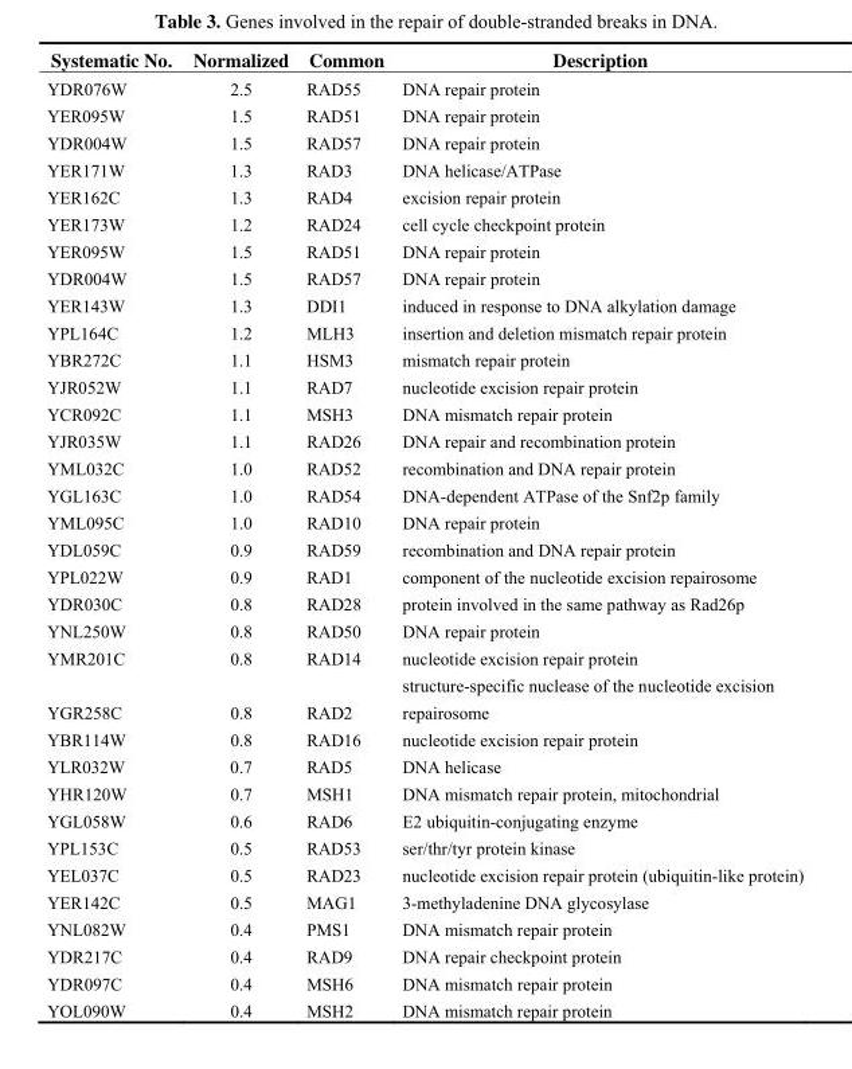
<table><thead><tr><td>Systematic No.</td><td>Normalized</td><td>Common</td><td>Description</td></tr></thead><tbody><tr><td>YDR076W</td><td>2.5</td><td>RAD55</td><td>DNA repair protein</td></tr><tr><td>YER095W</td><td>1.5</td><td>RAD51</td><td>DNA repair protein</td></tr><tr><td>YDR004W</td><td>1.5</td><td>RAD57</td><td>DNA repair protein</td></tr><tr><td>YER171W</td><td>1.3</td><td>RAD3</td><td>DNA helicase/ATPase</td></tr><tr><td>YER162C</td><td>1.3</td><td>RAD4</td><td>excision repair protein</td></tr><tr><td>YER173W</td><td>1.2</td><td>RAD24</td><td>cell cycle checkpoint protein</td></tr><tr><td>YER095W</td><td>1.5</td><td>RAD51</td><td>DNA repair protein</td></tr><tr><td>YDR004W</td><td>1.5</td><td>RAD57</td><td>DNA repair protein</td></tr><tr><td>YER143W</td><td>1.3</td><td>DDI1</td><td>induced in response to DNA alkylation damage</td></tr><tr><td>YPL164C</td><td>1.2</td><td>MLH3</td><td>insertion and deletion mismatch repair protein</td></tr><tr><td>YBR272C</td><td>1.1</td><td>HSM3</td><td>mismatch repair protein</td></tr><tr><td>YJR052W</td><td>1.1</td><td>RAD7</td><td>nucleotide excision repair protein</td></tr><tr><td>YCR092C</td><td>1.1</td><td>MSH3</td><td>DNA mismatch repair protein</td></tr><tr><td>YJR035W</td><td>1.1</td><td>RAD26</td><td>DNA repair and recombination protein</td></tr><tr><td>YML032C</td><td>1.0</td><td>RAD52</td><td>recombination and DNA repair protein</td></tr><tr><td>YGL163C</td><td>1.0</td><td>RAD54</td><td>DNA-dependent ATPase of the Snf2p family</td></tr><tr><td>YML095C</td><td>1.0</td><td>RAD10</td><td>DNA repair protein</td></tr><tr><td>YDL059C</td><td>0.9</td><td>RAD59</td><td>recombination and DNA repair protein</td></tr><tr><td>YPL022W</td><td>0.9</td><td>RAD1</td><td>component of the nucleotide excision repairosome</td></tr><tr><td>YDR030C</td><td>0.8</td><td>RAD28</td><td>protein involved in the same pathway as Rad26p</td></tr><tr><td>YNL250W</td><td>0.8</td><td>RAD50</td><td>DNA repair protein</td></tr><tr><td>YMR201C</td><td>0.8</td><td>RAD14</td><td>nucleotide excision repair protein</td></tr><tr><td>YGR258C</td><td>0.8</td><td>RAD2</td><td>structure-specific nuclease of the nucleotide excision repairosome</td></tr><tr><td>YBR114W</td><td>0.8</td><td>RAD16</td><td>nucleotide excision repair protein</td></tr><tr><td>YLR032W</td><td>0.7</td><td>RAD5</td><td>DNA helicase</td></tr><tr><td>YHR120W</td><td>0.7</td><td>MSH1</td><td>DNA mismatch repair protein, mitochondrial</td></tr><tr><td>YGL058W</td><td>0.6</td><td>RAD6</td><td>E2 ubiquitin-conjugating enzyme</td></tr><tr><td>YPL153C</td><td>0.5</td><td>RAD53</td><td>ser/thr/tyr protein kinase</td></tr><tr><td>YEL037C</td><td>0.5</td><td>RAD23</td><td>nucleotide excision repair protein (ubiquitin-like protein)</td></tr><tr><td>YER142C</td><td>0.5</td><td>MAG1</td><td>3-methyladenine DNA glycosylase</td></tr><tr><td>YNL082W</td><td>0.4</td><td>PMS1</td><td>DNA mismatch repair protein</td></tr><tr><td>YDR217C</td><td>0.4</td><td>RAD9</td><td>DNA repair checkpoint protein</td></tr><tr><td>YDR097C</td><td>0.4</td><td>MSH6</td><td>DNA mismatch repair protein</td></tr><tr><td>YOL090W</td><td>0.4</td><td>MSH2</td><td>DNA mismatch repair protein</td></tr></tbody></table>